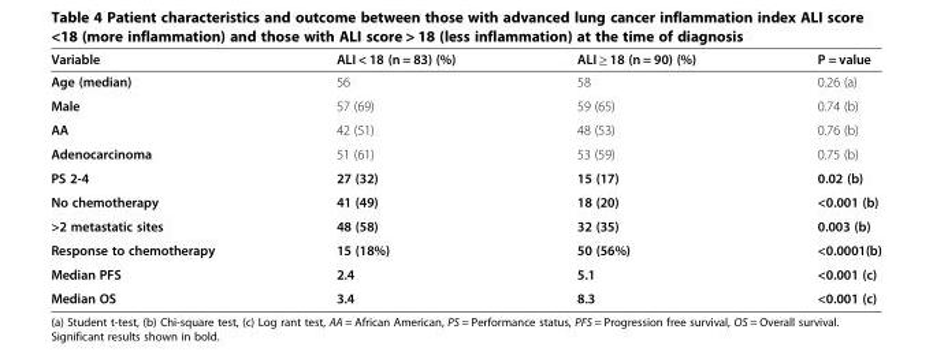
<table><thead><tr><td>Variable</td><td>ALI &lt; 18 (n = 83) (%)</td><td>ALI ≥ 18 (n = 90) (%)</td><td>P = value</td></tr></thead><tbody><tr><td>Age (median)</td><td>56</td><td>58</td><td>0.26 (a)</td></tr><tr><td>Male</td><td>57 (69)</td><td>59 (65)</td><td>0.74 (b)</td></tr><tr><td>AA</td><td>42 (51)</td><td>48 (53)</td><td>0.76 (b)</td></tr><tr><td>Adenocarcinoma</td><td>51 (61)</td><td>53 (59)</td><td>0.75 (b)</td></tr><tr><td>PS 2-4</td><td>27 (32)</td><td>15 (17)</td><td>0.02 (b)</td></tr><tr><td>No chemotherapy</td><td>41 (49)</td><td>18 (20)</td><td>&lt;0.001 (b)</td></tr><tr><td>&gt;2 metastatic sites</td><td>48 (58)</td><td>32 (35)</td><td>0.003 (b)</td></tr><tr><td>Response to chemotherapy</td><td>15 (18%)</td><td>50 (56%)</td><td>&lt;0.0001(b)</td></tr><tr><td>Median PFS</td><td>2.4</td><td>5.1</td><td>&lt;0.001 (c)</td></tr><tr><td>Median OS</td><td>3.4</td><td>8.3</td><td>&lt;0.001 (c)</td></tr></tbody></table>